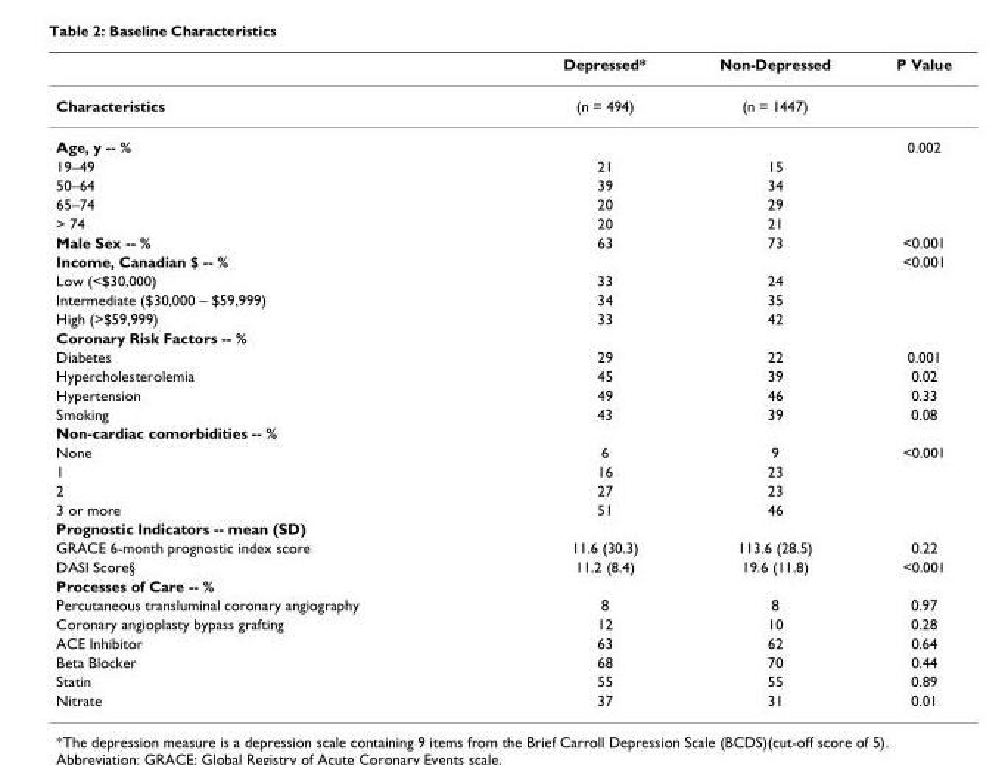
<table><thead><tr><td></td><td>Depressed*</td><td>Non-Depressed</td><td>P Value</td></tr></thead><tbody><tr><td>Characteristics</td><td>(n = 494)</td><td>(n = 1447)</td><td></td></tr><tr><td>Age, y -- %</td><td></td><td></td><td>0.002</td></tr><tr><td>19–49</td><td>21</td><td>15</td><td></td></tr><tr><td>50–64</td><td>39</td><td>34</td><td></td></tr><tr><td>65–74</td><td>20</td><td>29</td><td></td></tr><tr><td>&gt; 74</td><td>20</td><td>21</td><td></td></tr><tr><td>Male Sex -- %</td><td>63</td><td>73</td><td>&lt;0.001</td></tr><tr><td>Income, Canadian $ -- %</td><td></td><td></td><td>&lt;0.001</td></tr><tr><td>Low (&lt;$30,000)</td><td>33</td><td>24</td><td></td></tr><tr><td>Intermediate ($30,000 – $59,999)</td><td>34</td><td>35</td><td></td></tr><tr><td>High (&gt;$59,999)</td><td>33</td><td>42</td><td></td></tr><tr><td colspan="4">Coronary Risk Factors -- %</td></tr><tr><td>Diabetes</td><td>29</td><td>22</td><td>0.001</td></tr><tr><td>Hypercholesterolemia</td><td>45</td><td>39</td><td>0.02</td></tr><tr><td>Hypertension</td><td>49</td><td>46</td><td>0.33</td></tr><tr><td>Smoking</td><td>43</td><td>39</td><td>0.08</td></tr><tr><td colspan="4">Non-cardiac comorbidities -- %</td></tr><tr><td>None</td><td>6</td><td>9</td><td>&lt;0.001</td></tr><tr><td>1</td><td>16</td><td>23</td><td></td></tr><tr><td>2</td><td>27</td><td>23</td><td></td></tr><tr><td>3 or more</td><td>51</td><td>46</td><td></td></tr><tr><td colspan="4">Prognostic Indicators -- mean (SD)</td></tr><tr><td>GRACE 6-month prognostic index score</td><td>11.6 (30.3)</td><td>113.6 (28.5)</td><td>0.22</td></tr><tr><td>DASI Score§</td><td>11.2 (8.4)</td><td>19.6 (11.8)</td><td>&lt;0.001</td></tr><tr><td colspan="4">Processes of Care -- %</td></tr><tr><td>Percutaneous transluminal coronary angiography</td><td>8</td><td>8</td><td>0.97</td></tr><tr><td>Coronary angioplasty bypass grafting</td><td>12</td><td>10</td><td>0.28</td></tr><tr><td>ACE Inhibitor</td><td>63</td><td>62</td><td>0.64</td></tr><tr><td>Beta Blocker</td><td>68</td><td>70</td><td>0.44</td></tr><tr><td>Statin</td><td>55</td><td>55</td><td>0.89</td></tr><tr><td>Nitrate</td><td>37</td><td>31</td><td>0.01</td></tr></tbody></table>